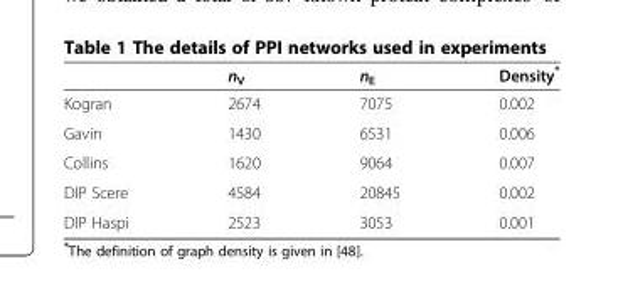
<table><thead><tr><td></td><td>n<sub>V</sub></td><td>n<sub>E</sub></td><td>Density*</td></tr></thead><tbody><tr><td>Kogran</td><td>2674</td><td>7075</td><td>0.002</td></tr><tr><td>Gavin</td><td>1430</td><td>6531</td><td>0.006</td></tr><tr><td>Collins</td><td>1620</td><td>9064</td><td>0.007</td></tr><tr><td>DIP Scere</td><td>4584</td><td>20845</td><td>0.002</td></tr><tr><td>DIP Haspi</td><td>2523</td><td>3053</td><td>0.001</td></tr></tbody></table>